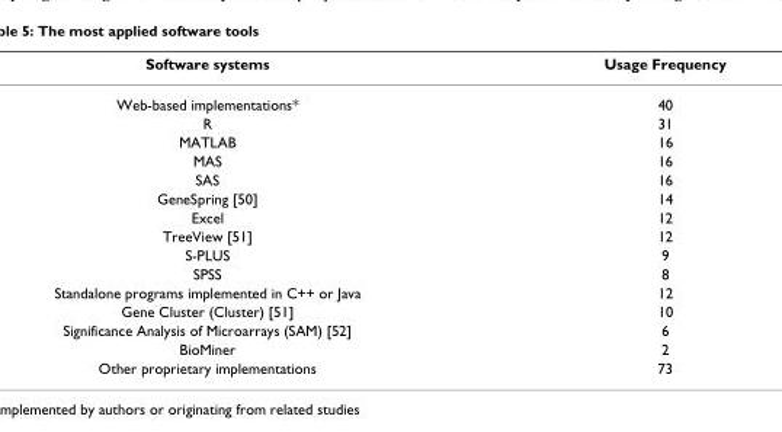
<table><thead><tr><td>Software systems</td><td>Usage Frequency</td></tr></thead><tbody><tr><td>Web-based implementations*</td><td>40</td></tr><tr><td>R</td><td>31</td></tr><tr><td>MATLAB</td><td>16</td></tr><tr><td>MAS</td><td>16</td></tr><tr><td>SAS</td><td>16</td></tr><tr><td>GeneSpring [50]</td><td>14</td></tr><tr><td>Excel</td><td>12</td></tr><tr><td>TreeView [51]</td><td>12</td></tr><tr><td>S-PLUS</td><td>9</td></tr><tr><td>SPSS</td><td>8</td></tr><tr><td>Standalone programs implemented in C++ or Java</td><td>12</td></tr><tr><td>Gene Cluster (Cluster) [51]</td><td>10</td></tr><tr><td>Significance Analysis of Microarrays (SAM) [52]</td><td>6</td></tr><tr><td>BioMiner</td><td>2</td></tr><tr><td>Other proprietary implementations</td><td>73</td></tr></tbody></table>